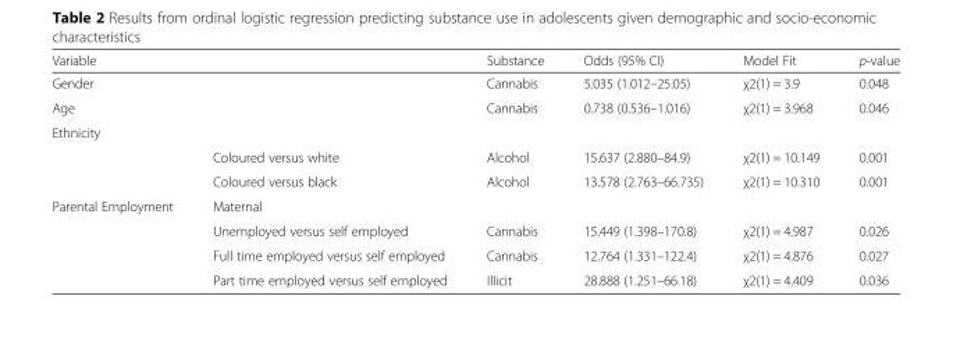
<table><thead><tr><td>Variable</td><td></td><td>Substance</td><td>Odds (95% CI)</td><td>Model Fit</td><td>p-value</td></tr></thead><tbody><tr><td>Gender</td><td></td><td>Cannabis</td><td>5.035 (1.012–25.05)</td><td>χ2(1) = 3.9</td><td>0.048</td></tr><tr><td>Age</td><td></td><td>Cannabis</td><td>0.738 (0.536–1.016)</td><td>χ2(1) = 3.968</td><td>0.046</td></tr><tr><td colspan="6">Ethnicity</td></tr><tr><td></td><td>Coloured versus white</td><td>Alcohol</td><td>15.637 (2.880–84.9)</td><td>χ2(1) = 10.149</td><td>0.001</td></tr><tr><td></td><td>Coloured versus black</td><td>Alcohol</td><td>13.578 (2.763–66.735)</td><td>χ2(1) = 10.310</td><td>0.001</td></tr><tr><td rowspan="4">Parental Employment</td><td>Maternal</td><td></td><td></td><td></td><td></td></tr><tr><td>Unemployed versus self employed</td><td>Cannabis</td><td>15.449 (1.398–170.8)</td><td>χ2(1) = 4.987</td><td>0.026</td></tr><tr><td>Full time employed versus self employed</td><td>Cannabis</td><td>12.764 (1.331–122.4)</td><td>χ2(1) = 4.876</td><td>0.027</td></tr><tr><td>Part time employed versus self employed</td><td>Illicit</td><td>28.888 (1.251–66.18)</td><td>χ2(1) = 4.409</td><td>0.036</td></tr></tbody></table>